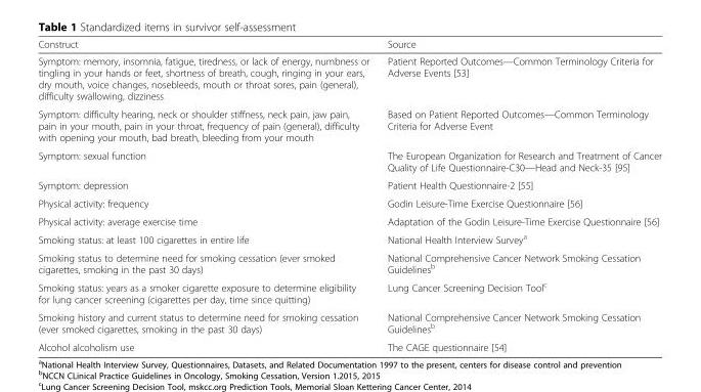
<table><thead><tr><td>Construct</td><td>Source</td></tr></thead><tbody><tr><td>Symptom: memory, insomnia, fatigue, tiredness, or lack of energy, numbness or tingling in your hands or feet, shortness of breath, cough, ringing in your ears, dry mouth, voice changes, nosebleeds, mouth or throat sores, pain (general), difficulty swallowing, dizziness</td><td>Patient Reported Outcomes—Common Terminology Criteria for Adverse Events [53]</td></tr><tr><td>Symptom: difficulty hearing, neck or shoulder stiffness, neck pain, jaw pain, pain in your mouth, pain in your throat, frequency of pain (general), difficulty with opening your mouth, bad breath, bleeding from your mouth</td><td>Based on Patient Reported Outcomes—Common Terminology Criteria for Adverse Event</td></tr><tr><td>Symptom: sexual function</td><td>The European Organization for Research and Treatment of Cancer Quality of Life Questionnaire-C30—Head and Neck-35 [95]</td></tr><tr><td>Symptom: depression</td><td>Patient Health Questionnaire-2 [55]</td></tr><tr><td>Physical activity: frequency</td><td>Godin Leisure-Time Exercise Questionnaire [56]</td></tr><tr><td>Physical activity: average exercise time</td><td>Adaptation of the Godin Leisure-Time Exercise Questionnaire [56]</td></tr><tr><td>Smoking status: at least 100 cigarettes in entire life</td><td>National Health Interview Survey<sup>a</sup></td></tr><tr><td>Smoking status to determine need for smoking cessation (ever smoked cigarettes, smoking in the past 30 days)</td><td>National Comprehensive Cancer Network Smoking Cessation Guidelines<sup>b</sup></td></tr><tr><td>Smoking status: years as a smoker cigarette exposure to determine eligibility for lung cancer screening (cigarettes per day, time since quitting)</td><td>Lung Cancer Screening Decision Tool<sup>c</sup></td></tr><tr><td>Smoking history and current status to determine need for smoking cessation (ever smoked cigarettes, smoking in the past 30 days)</td><td>National Comprehensive Cancer Network Smoking Cessation Guidelines<sup>b</sup></td></tr><tr><td>Alcohol alcoholism use</td><td>The CAGE questionnaire [54]</td></tr></tbody></table>